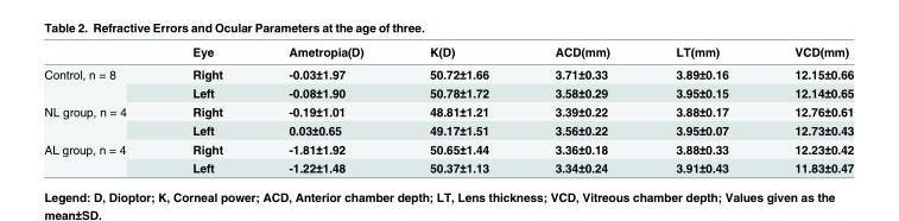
<table><thead><tr><td></td><td>Eye</td><td>Ametropia(D)</td><td>K(D)</td><td>ACD(mm)</td><td>LT(mm)</td><td>VCD(mm)</td></tr></thead><tbody><tr><td rowspan="2">Control, n = 8</td><td>Right</td><td>-0.03±1.97</td><td>50.72±1.66</td><td>3.71±0.33</td><td>3.89±0.16</td><td>12.15±0.66</td></tr><tr><td>Left</td><td>-0.08±1.90</td><td>50.78±1.72</td><td>3.58±0.29</td><td>3.95±0.15</td><td>12.14±0.65</td></tr><tr><td rowspan="2">NL group, n = 4</td><td>Right</td><td>-0.19±1.01</td><td>48.81±1.21</td><td>3.39±0.22</td><td>3.88±0.17</td><td>12.76±0.61</td></tr><tr><td>Left</td><td>0.03±0.65</td><td>49.17±1.51</td><td>3.56±0.22</td><td>3.95±0.07</td><td>12.73±0.43</td></tr><tr><td rowspan="2">AL group, n = 4</td><td>Right</td><td>-1.81±1.92</td><td>50.65±1.44</td><td>3.36±0.18</td><td>3.88±0.33</td><td>12.23±0.42</td></tr><tr><td>Left</td><td>-1.22±1.48</td><td>50.37±1.13</td><td>3.34±0.24</td><td>3.91±0.43</td><td>11.83±0.47</td></tr></tbody></table>